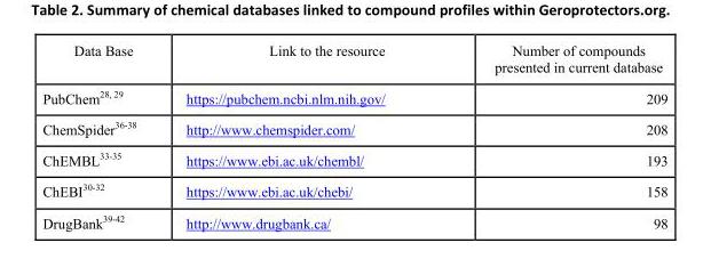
<table><thead><tr><td>Data Base</td><td>Link to the resource</td><td>Number of compounds presented in current database</td></tr></thead><tbody><tr><td>PubChem<sup>28, 29</sup></td><td>https://pubchem.ncbi.nlm.nih.gov/</td><td>209</td></tr><tr><td>ChemSpider<sup>36-38</sup></td><td>http://www.chemspider.com/</td><td>208</td></tr><tr><td>ChEMBL<sup>33-35</sup></td><td>https://www.ebi.ac.uk/chembl/</td><td>193</td></tr><tr><td>ChEBI<sup>30-32</sup></td><td>https://www.ebi.ac.uk/chebi/</td><td>158</td></tr><tr><td>DrugBank<sup>39-42</sup></td><td>http://www.drugbank.ca/</td><td>98</td></tr></tbody></table>